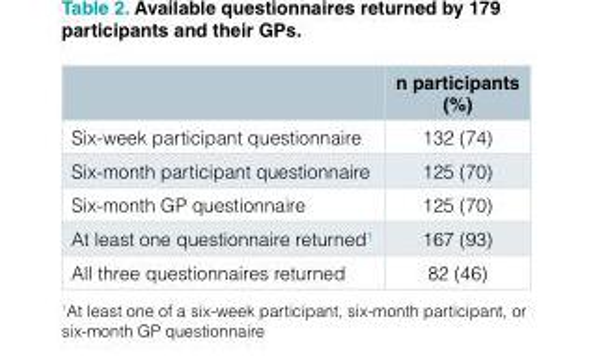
<table><thead><tr><td></td><td>n participants (%)</td></tr></thead><tbody><tr><td>Six-week participant questionnaire</td><td>132 (74)</td></tr><tr><td>Six-month participant questionnaire</td><td>125 (70)</td></tr><tr><td>Six-month GP questionnaire</td><td>125 (70)</td></tr><tr><td>At least one questionnaire returned<sup>1</sup></td><td>167 (93)</td></tr><tr><td>All three questionnaires returned</td><td>82 (46)</td></tr></tbody></table>